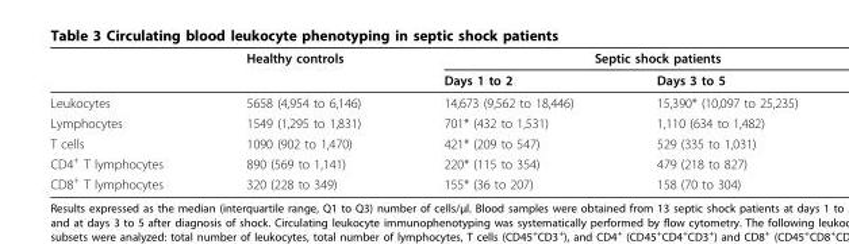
<table><thead><tr><td rowspan="2"></td><td rowspan="2">Healthy controls</td><td colspan="2">Septic shock patients</td></tr><tr><td>Days 1 to 2</td><td>Days 3 to 5</td></tr></thead><tbody><tr><td>Leukocytes</td><td>5658 (4,954 to 6,146)</td><td>14,673 (9,562 to 18,446)</td><td>15,390* (10,097 to 25,235)</td></tr><tr><td>Lymphocytes</td><td>1549 (1,295 to 1,831)</td><td>701* (432 to 1,531)</td><td>1,110 (634 to 1,482)</td></tr><tr><td>T cells</td><td>1090 (902 to 1,470)</td><td>421* (209 to 547)</td><td>529 (335 to 1,031)</td></tr><tr><td>CD4<sup>+</sup> T lymphocytes</td><td>890 (569 to 1,141)</td><td>220* (115 to 354)</td><td>479 (218 to 827)</td></tr><tr><td>CD8<sup>+</sup> T lymphocytes</td><td>320 (228 to 349)</td><td>155* (36 to 207)</td><td>158 (70 to 304)</td></tr></tbody></table>